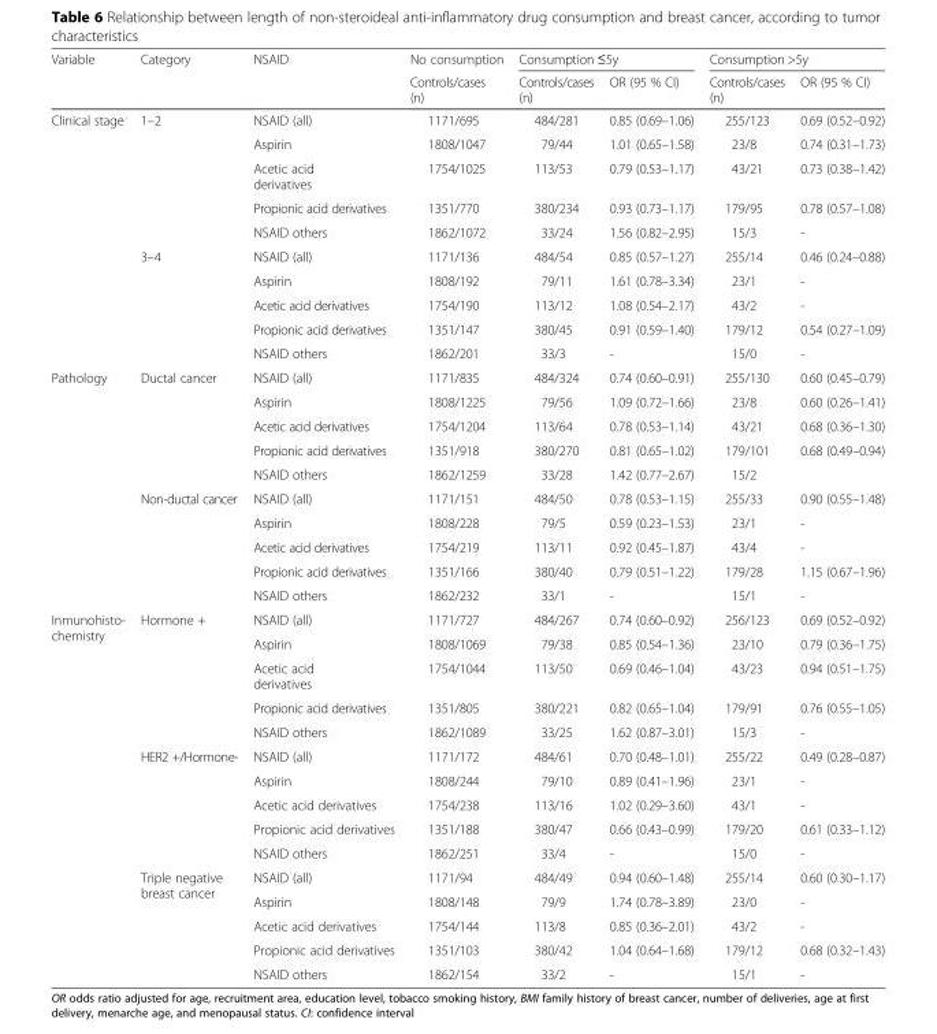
<table><thead><tr><td rowspan="2">Variable</td><td rowspan="2">Category</td><td rowspan="2">NSAID</td><td rowspan="2">No consumption Controls/cases (n)</td><td colspan="2">Consumption ≤5y</td><td colspan="2">Consumption &gt;5y</td></tr><tr><td>Controls/cases (n)</td><td>OR (95 % CI)</td><td>Controls/cases (n)</td><td>OR (95 % CI)</td></tr></thead><tbody><tr><td rowspan="10">Clinical stage</td><td rowspan="5">1–2</td><td>NSAID (all)</td><td>1171/695</td><td>484/281</td><td>0.85 (0.69–1.06)</td><td>255/123</td><td>0.69 (0.52–0.92)</td></tr><tr><td>Aspirin</td><td>1808/1047</td><td>79/44</td><td>1.01 (0.65–1.58)</td><td>23/8</td><td>0.74 (0.31–1.73)</td></tr><tr><td>Acetic acid derivatives</td><td>1754/1025</td><td>113/53</td><td>0.79 (0.53–1.17)</td><td>43/21</td><td>0.73 (0.38–1.42)</td></tr><tr><td>Propionic acid derivatives</td><td>1351/770</td><td>380/234</td><td>0.93 (0.73–1.17)</td><td>179/95</td><td>0.78 (0.57–1.08)</td></tr><tr><td>NSAID others</td><td>1862/1072</td><td>33/24</td><td>1.56 (0.82–2.95)</td><td>15/3</td><td>-</td></tr><tr><td rowspan="5">3–4</td><td>NSAID (all)</td><td>1171/136</td><td>484/54</td><td>0.85 (0.57–1.27)</td><td>255/14</td><td>0.46 (0.24–0.88)</td></tr><tr><td>Aspirin</td><td>1808/192</td><td>79/11</td><td>1.61 (0.78–3.34)</td><td>23/1</td><td>-</td></tr><tr><td>Acetic acid derivatives</td><td>1754/190</td><td>113/12</td><td>1.08 (0.54–2.17)</td><td>43/2</td><td>-</td></tr><tr><td>Propionic acid derivatives</td><td>1351/147</td><td>380/45</td><td>0.91 (0.59–1.40)</td><td>179/12</td><td>0.54 (0.27–1.09)</td></tr><tr><td>NSAID others</td><td>1862/201</td><td>33/3</td><td>-</td><td>15/0</td><td>-</td></tr><tr><td rowspan="10">Pathology</td><td rowspan="5">Ductal cancer</td><td>NSAID (all)</td><td>1171/835</td><td>484/324</td><td>0.74 (0.60–0.91)</td><td>255/130</td><td>0.60 (0.45–0.79)</td></tr><tr><td>Aspirin</td><td>1808/1225</td><td>79/56</td><td>1.09 (0.72–1.66)</td><td>23/8</td><td>0.60 (0.26–1.41)</td></tr><tr><td>Acetic acid derivatives</td><td>1754/1204</td><td>113/64</td><td>0.78 (0.53–1.14)</td><td>43/21</td><td>0.68 (0.36–1.30)</td></tr><tr><td>Propionic acid derivatives</td><td>1351/918</td><td>380/270</td><td>0.81 (0.65–1.02)</td><td>179/101</td><td>0.68 (0.49–0.94)</td></tr><tr><td>NSAID others</td><td>1862/1259</td><td>33/28</td><td>1.42 (0.77–2.67)</td><td>15/2</td><td></td></tr><tr><td rowspan="5">Non-ductal cancer</td><td>NSAID (all)</td><td>1171/151</td><td>484/50</td><td>0.78 (0.53–1.15)</td><td>255/33</td><td>0.90 (0.55–1.48)</td></tr><tr><td>Aspirin</td><td>1808/228</td><td>79/5</td><td>0.59 (0.23–1.53)</td><td>23/1</td><td>-</td></tr><tr><td>Acetic acid derivatives</td><td>1754/219</td><td>113/11</td><td>0.92 (0.45–1.87)</td><td>43/4</td><td>-</td></tr><tr><td>Propionic acid derivatives</td><td>1351/166</td><td>380/40</td><td>0.79 (0.51–1.22)</td><td>179/28</td><td>1.15 (0.67–1.96)</td></tr><tr><td>NSAID others</td><td>1862/232</td><td>33/1</td><td>-</td><td>15/1</td><td>-</td></tr><tr><td rowspan="15">Inmunohisto- chemistry</td><td rowspan="5">Hormone +</td><td>NSAID (all)</td><td>1171/727</td><td>484/267</td><td>0.74 (0.60–0.92)</td><td>256/123</td><td>0.69 (0.52–0.92)</td></tr><tr><td>Aspirin</td><td>1808/1069</td><td>79/38</td><td>0.85 (0.54–1.36)</td><td>23/10</td><td>0.79 (0.36–1.75)</td></tr><tr><td>Acetic acid derivatives</td><td>1754/1044</td><td>113/50</td><td>0.69 (0.46–1.04)</td><td>43/23</td><td>0.94 (0.51–1.75)</td></tr><tr><td>Propionic acid derivatives</td><td>1351/805</td><td>380/221</td><td>0.82 (0.65–1.04)</td><td>179/91</td><td>0.76 (0.55–1.05)</td></tr><tr><td>NSAID others</td><td>1862/1089</td><td>33/25</td><td>1.62 (0.87–3.01)</td><td>15/3</td><td>-</td></tr><tr><td rowspan="5">HER2 +/Hormone-</td><td>NSAID (all)</td><td>1171/172</td><td>484/61</td><td>0.70 (0.48–1.01)</td><td>255/22</td><td>0.49 (0.28–0.87)</td></tr><tr><td>Aspirin</td><td>1808/244</td><td>79/10</td><td>0.89 (0.41–1.96)</td><td>23/1</td><td>-</td></tr><tr><td>Acetic acid derivatives</td><td>1754/238</td><td>113/16</td><td>1.02 (0.29–3.60)</td><td>43/1</td><td>-</td></tr><tr><td>Propionic acid derivatives</td><td>1351/188</td><td>380/47</td><td>0.66 (0.43–0.99)</td><td>179/20</td><td>0.61 (0.33–1.12)</td></tr><tr><td>NSAID others</td><td>1862/251</td><td>33/4</td><td>-</td><td>15/0</td><td>-</td></tr><tr><td rowspan="5">Triple negative breast cancer</td><td>NSAID (all)</td><td>1171/94</td><td>484/49</td><td>0.94 (0.60–1.48)</td><td>255/14</td><td>0.60 (0.30–1.17)</td></tr><tr><td>Aspirin</td><td>1808/148</td><td>79/9</td><td>1.74 (0.78–3.89)</td><td>23/0</td><td>-</td></tr><tr><td>Acetic acid derivatives</td><td>1754/144</td><td>113/8</td><td>0.85 (0.36–2.01)</td><td>43/2</td><td>-</td></tr><tr><td>Propionic acid derivatives</td><td>1351/103</td><td>380/42</td><td>1.04 (0.64–1.68)</td><td>179/12</td><td>0.68 (0.32–1.43)</td></tr><tr><td>NSAID others</td><td>1862/154</td><td>33/2</td><td>-</td><td>15/1</td><td>-</td></tr></tbody></table>